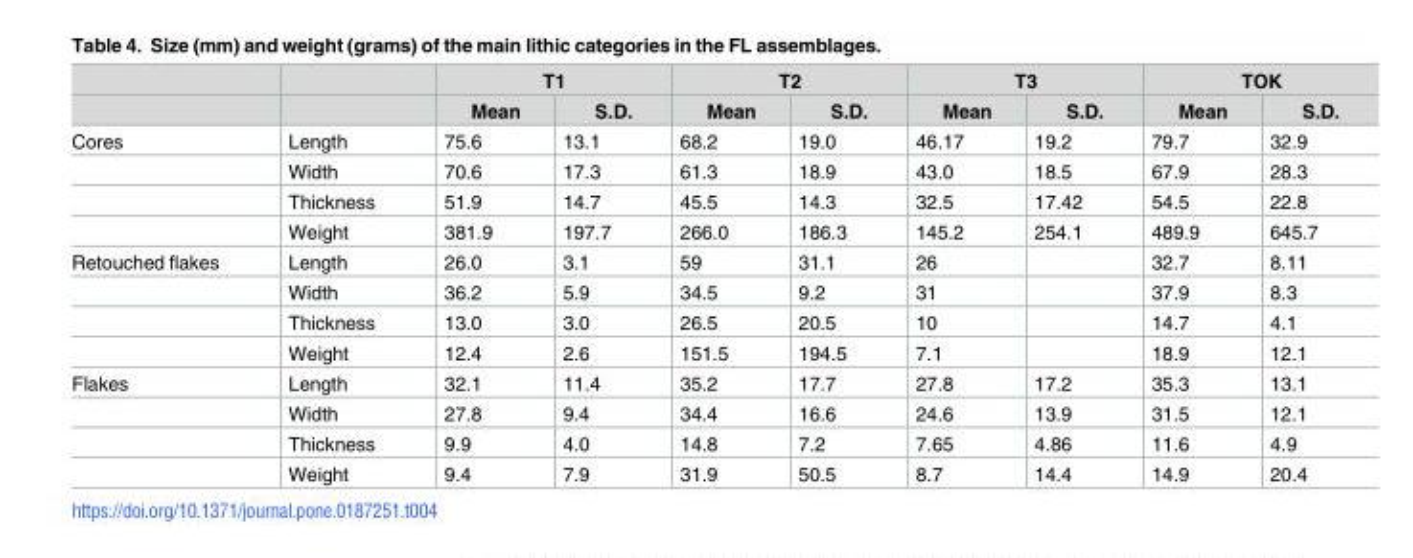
<table><thead><tr><td rowspan="2"></td><td rowspan="2"></td><td colspan="2">T1</td><td colspan="2">T2</td><td colspan="2">T3</td><td colspan="2">TOK</td></tr><tr><td>Mean</td><td>S.D.</td><td>Mean</td><td>S.D.</td><td>Mean</td><td>S.D.</td><td>Mean</td><td>S.D.</td></tr></thead><tbody><tr><td rowspan="4">Cores</td><td>Length</td><td>75.6</td><td>13.1</td><td>68.2</td><td>19.0</td><td>46.17</td><td>19.2</td><td>79.7</td><td>32.9</td></tr><tr><td>Width</td><td>70.6</td><td>17.3</td><td>61.3</td><td>18.9</td><td>43.0</td><td>18.5</td><td>67.9</td><td>28.3</td></tr><tr><td>Thickness</td><td>51.9</td><td>14.7</td><td>45.5</td><td>14.3</td><td>32.5</td><td>17.42</td><td>54.5</td><td>22.8</td></tr><tr><td>Weight</td><td>381.9</td><td>197.7</td><td>266.0</td><td>186.3</td><td>145.2</td><td>254.1</td><td>489.9</td><td>645.7</td></tr><tr><td rowspan="4">Retouched flakes</td><td>Length</td><td>26.0</td><td>3.1</td><td>59</td><td>31.1</td><td>26</td><td></td><td>32.7</td><td>8.11</td></tr><tr><td>Width</td><td>36.2</td><td>5.9</td><td>34.5</td><td>9.2</td><td>31</td><td></td><td>37.9</td><td>8.3</td></tr><tr><td>Thickness</td><td>13.0</td><td>3.0</td><td>26.5</td><td>20.5</td><td>10</td><td></td><td>14.7</td><td>4.1</td></tr><tr><td>Weight</td><td>12.4</td><td>2.6</td><td>151.5</td><td>194.5</td><td>7.1</td><td></td><td>18.9</td><td>12.1</td></tr><tr><td rowspan="4">Flakes</td><td>Length</td><td>32.1</td><td>11.4</td><td>35.2</td><td>17.7</td><td>27.8</td><td>17.2</td><td>35.3</td><td>13.1</td></tr><tr><td>Width</td><td>27.8</td><td>9.4</td><td>34.4</td><td>16.6</td><td>24.6</td><td>13.9</td><td>31.5</td><td>12.1</td></tr><tr><td>Thickness</td><td>9.9</td><td>4.0</td><td>14.8</td><td>7.2</td><td>7.65</td><td>4.86</td><td>11.6</td><td>4.9</td></tr><tr><td>Weight</td><td>9.4</td><td>7.9</td><td>31.9</td><td>50.5</td><td>8.7</td><td>14.4</td><td>14.9</td><td>20.4</td></tr></tbody></table>